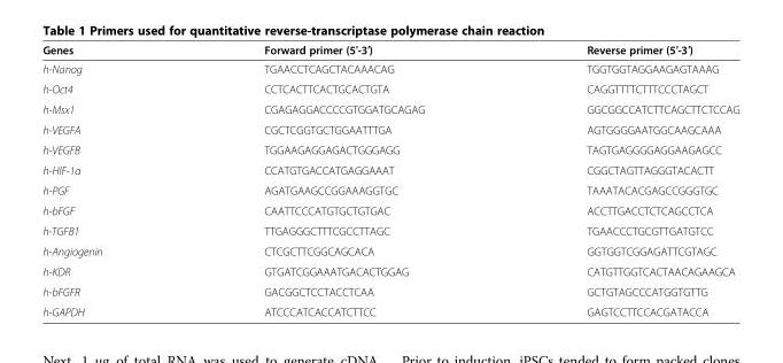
<table><thead><tr><td>Genes</td><td>Forward primer (5′-3′)</td><td>Reverse primer (5′-3′)</td></tr></thead><tbody><tr><td>h-Nanog</td><td>TGAACCTCAGCTACAAACAG</td><td>TGGTGGTAGGAAGAGTAAAG</td></tr><tr><td>h-Oct4</td><td>CCTCACTTCACTGCACTGTA</td><td>CAGGTTTTCTTTCCCTAGCT</td></tr><tr><td>h-Msx1</td><td>CGAGAGGACCCCGTGGATGCAGAG</td><td>GGCGGCCATCTTCAGCTTCTCCAG</td></tr><tr><td>h-VEGFA</td><td>CGCTCGGTGCTGGAATTTGA</td><td>AGTGGGGAATGGCAAGCAAA</td></tr><tr><td>h-VEGFB</td><td>TGGAAGAGGAGACTGGGAGG</td><td>TAGTGAGGGGAGGAAGAGCC</td></tr><tr><td>h-HIF-1α</td><td>CCATGTGACCATGAGGAAAT</td><td>CGGCTAGTTAGGGTACACTT</td></tr><tr><td>h-PGF</td><td>AGATGAAGCCGGAAAGGTGC</td><td>TAAATACACGAGCCGGGTGC</td></tr><tr><td>h-bFGF</td><td>CAATTCCCATGTGCTGTGAC</td><td>ACCTTGACCTCTCAGCCTCA</td></tr><tr><td>h-TGFB1</td><td>TTGAGGGCTTTCGCCTTAGC</td><td>TGAACCCTGCGTTGATGTCC</td></tr><tr><td>h-Angiogenin</td><td>CTCGCTTCGGCAGCACA</td><td>GGTGGTCGGAGATTCGTAGC</td></tr><tr><td>h-KDR</td><td>GTGATCGGAAATGACACTGGAG</td><td>CATGTTGGTCACTAACAGAAGCA</td></tr><tr><td>h-bFGFR</td><td>GACGGCTCCTACCTCAA</td><td>GCTGTAGCCCATGGTGTTG</td></tr><tr><td>h-GAPDH</td><td>ATCCCATCACCATCTTCC</td><td>GAGTCCTTCCACGATACCA</td></tr></tbody></table>